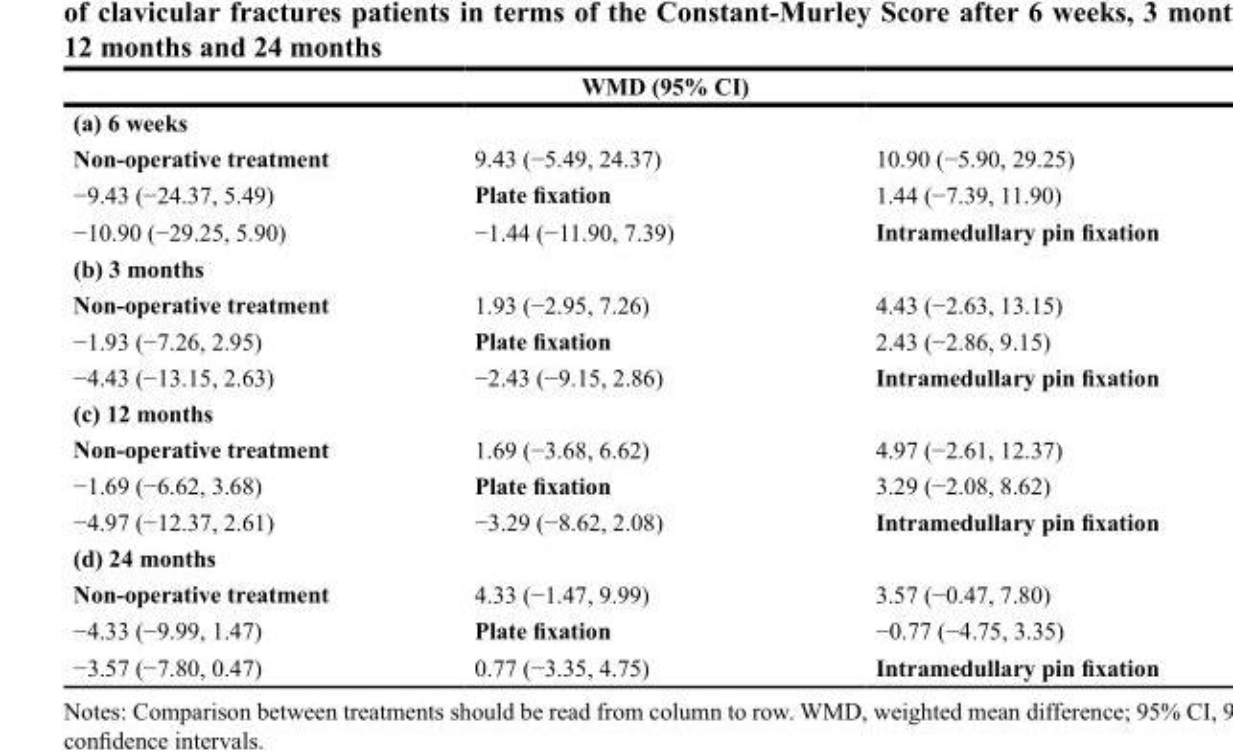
<table><thead><tr><td rowspan="2" colspan="3">WMD (95% CI) (a) 6 weeks</td></tr><tr></tr><tr><td>Non-operative treatment</td><td>9.43 (−5.49, 24.37)</td><td>10.90 (−5.90, 29.25)</td></tr></thead><tbody><tr><td>−9.43 (−24.37, 5.49)</td><td>Plate fixation</td><td>1.44 (−7.39, 11.90)</td></tr><tr><td>−10.90 (−29.25, 5.90)</td><td>−1.44 (−11.90, 7.39)</td><td>Intramedullary pin fixation</td></tr><tr><td colspan="3">(b) 3 months</td></tr><tr><td>Non-operative treatment</td><td>1.93 (−2.95, 7.26)</td><td>4.43 (−2.63, 13.15)</td></tr><tr><td>−1.93 (−7.26, 2.95)</td><td>Plate fixation</td><td>2.43 (−2.86, 9.15)</td></tr><tr><td>−4.43 (−13.15, 2.63)</td><td>−2.43 (−9.15, 2.86)</td><td>Intramedullary pin fixation</td></tr><tr><td colspan="3">(c) 12 months</td></tr><tr><td>Non-operative treatment</td><td>1.69 (−3.68, 6.62)</td><td>4.97 (−2.61, 12.37)</td></tr><tr><td>−1.69 (−6.62, 3.68)</td><td>Plate fixation</td><td>3.29 (−2.08, 8.62)</td></tr><tr><td>−4.97 (−12.37, 2.61)</td><td>−3.29 (−8.62, 2.08)</td><td>Intramedullary pin fixation</td></tr><tr><td colspan="3">(d) 24 months</td></tr><tr><td>Non-operative treatment</td><td>4.33 (−1.47, 9.99)</td><td>3.57 (−0.47, 7.80)</td></tr><tr><td>−4.33 (−9.99, 1.47)</td><td>Plate fixation</td><td>−0.77 (−4.75, 3.35)</td></tr><tr><td>−3.57 (−7.80, 0.47)</td><td>0.77 (−3.35, 4.75)</td><td>Intramedullary pin fixation</td></tr></tbody></table>